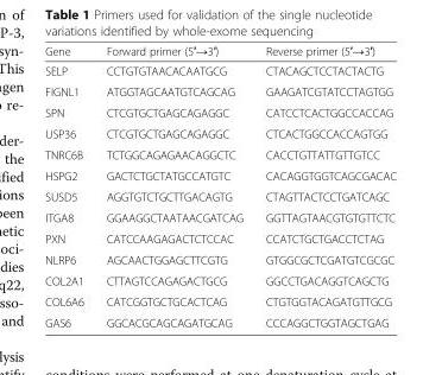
<table><thead><tr><td>Gene</td><td>Forward primer (5′→3′)</td><td>Reverse primer (5′→3′)</td></tr></thead><tbody><tr><td>SELP</td><td>CCTGTGTAACACAATGCG</td><td>CTACAGCTCCTACTACTG</td></tr><tr><td>FIGNL1</td><td>ATGGTAGCAATGTCAGCAG</td><td>GAAGATCGTATCCTAGTGG</td></tr><tr><td>SPN</td><td>CTCGTGCTGAGCAGAGGC</td><td>CATCCTCACTGGCCACCAG</td></tr><tr><td>USP36</td><td>CTCGTGCTGAGCAGAGGC</td><td>CTCACTGGCCACCAGTGG</td></tr><tr><td>TNRC6B</td><td>TCTGGCAGAGAACAGGCTC</td><td>CACCTGTTATTGTTGTCC</td></tr><tr><td>HSPG2</td><td>GACTCTGCTATGCCATGTC</td><td>CACAGGTGGTCAGCGACAC</td></tr><tr><td>SUSD5</td><td>AGGTGTCTGCTTGACAGTG</td><td>CTAGTTACTCCTGATCAGC</td></tr><tr><td>ITGA8</td><td>GGAAGGCTAATAACGATCAG</td><td>GGTTAGTAACGTGTGTTCTC</td></tr><tr><td>PXN</td><td>CATCCAAGAGACTCTCCAC</td><td>CCATCTGCTGACCTCTAG</td></tr><tr><td>NLRP6</td><td>AGCAACTGGAGCTTCGTG</td><td>GTGGCGCTCGATGTCGCGC</td></tr><tr><td>COL2A1</td><td>CTTAGTCCAGAGACTGCG</td><td>GGCCTGACAGGTCAGCTG</td></tr><tr><td>COL6A6</td><td>CATCGGTGCTGCACTCAG</td><td>CTGTGGTACAGATGTTGCG</td></tr><tr><td>GAS6</td><td>GGCACGCAGCAGATGCAG</td><td>CCCAGGCTGGTAGCTGAG</td></tr></tbody></table>